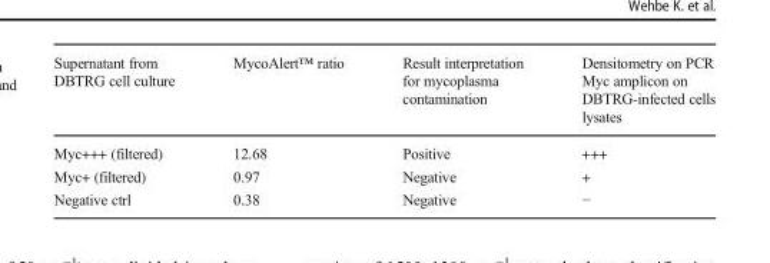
<table><thead><tr><td>Supernatant from DBTRG cell culture</td><td>MycoAlert™ ratio</td><td>Result interpretation for mycoplasma contamination</td><td>Densitometry on PCR Myc amplicon on DBTRG-infected cells lysates</td></tr></thead><tbody><tr><td>Myc+++ (filtered)</td><td>12.68</td><td>Positive</td><td>+++</td></tr><tr><td>Myc+ (filtered)</td><td>0.97</td><td>Negative</td><td>+</td></tr><tr><td>Negative ctrl</td><td>0.38</td><td>Negative</td><td>−</td></tr></tbody></table>